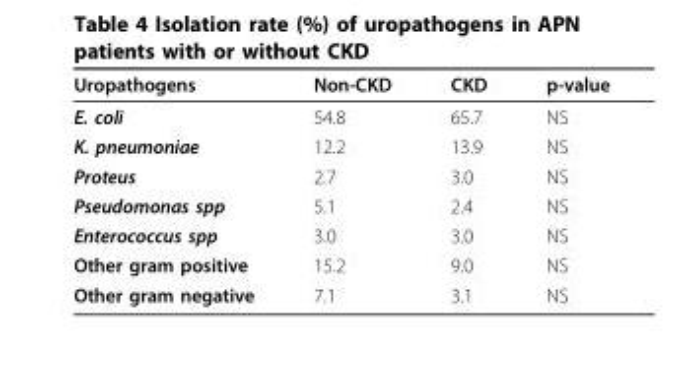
<table><thead><tr><td>Uropathogens</td><td>Non-CKD</td><td>CKD</td><td>p-value</td></tr></thead><tbody><tr><td>E. coli</td><td>54.8</td><td>65.7</td><td>NS</td></tr><tr><td>K. pneumoniae</td><td>12.2</td><td>13.9</td><td>NS</td></tr><tr><td>Proteus</td><td>2.7</td><td>3.0</td><td>NS</td></tr><tr><td>Pseudomonas spp</td><td>5.1</td><td>2.4</td><td>NS</td></tr><tr><td>Enterococcus spp</td><td>3.0</td><td>3.0</td><td>NS</td></tr><tr><td>Other gram positive</td><td>15.2</td><td>9.0</td><td>NS</td></tr><tr><td>Other gram negative</td><td>7.1</td><td>3.1</td><td>NS</td></tr></tbody></table>